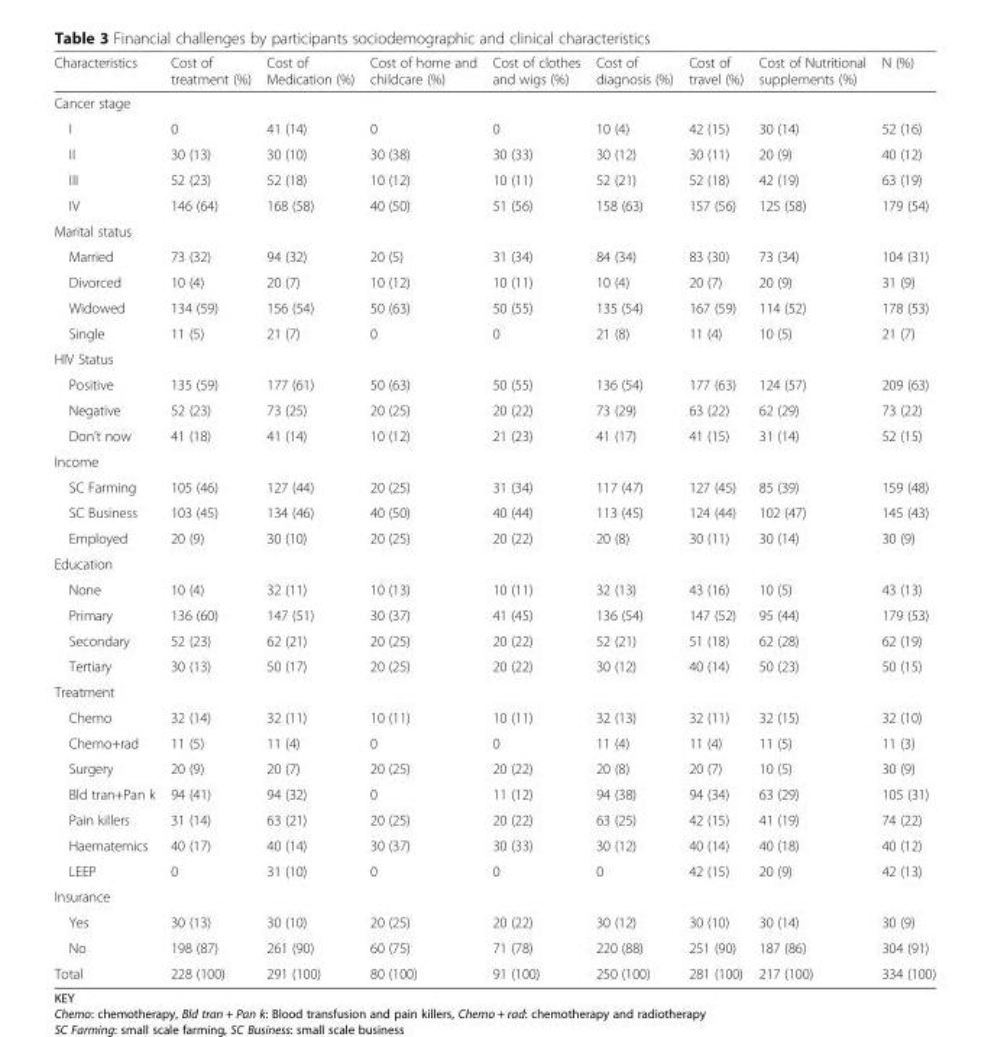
<table><thead><tr><td>Characteristics</td><td>Cost of treatment (%)</td><td>Cost of Medication (%)</td><td>Cost of home and childcare (%)</td><td>Cost of clothes and wigs (%)</td><td>Cost of diagnosis (%)</td><td>Cost of travel (%)</td><td>Cost of Nutritional supplements (%)</td><td>N (%)</td></tr></thead><tbody><tr><td colspan="9">Cancer stage</td></tr><tr><td>I</td><td>0</td><td>41 (14)</td><td>0</td><td>0</td><td>10 (4)</td><td>42 (15)</td><td>30 (14)</td><td>52 (16)</td></tr><tr><td>II</td><td>30 (13)</td><td>30 (10)</td><td>30 (38)</td><td>30 (33)</td><td>30 (12)</td><td>30 (11)</td><td>20 (9)</td><td>40 (12)</td></tr><tr><td>III</td><td>52 (23)</td><td>52 (18)</td><td>10 (12)</td><td>10 (11)</td><td>52 (21)</td><td>52 (18)</td><td>42 (19)</td><td>63 (19)</td></tr><tr><td>IV</td><td>146 (64)</td><td>168 (58)</td><td>40 (50)</td><td>51 (56)</td><td>158 (63)</td><td>157 (56)</td><td>125 (58)</td><td>179 (54)</td></tr><tr><td colspan="9">Marital status</td></tr><tr><td>Married</td><td>73 (32)</td><td>94 (32)</td><td>20 (5)</td><td>31 (34)</td><td>84 (34)</td><td>83 (30)</td><td>73 (34)</td><td>104 (31)</td></tr><tr><td>Divorced</td><td>10 (4)</td><td>20 (7)</td><td>10 (12)</td><td>10 (11)</td><td>10 (4)</td><td>20 (7)</td><td>20 (9)</td><td>31 (9)</td></tr><tr><td>Widowed</td><td>134 (59)</td><td>156 (54)</td><td>50 (63)</td><td>50 (55)</td><td>135 (54)</td><td>167 (59)</td><td>114 (52)</td><td>178 (53)</td></tr><tr><td>Single</td><td>11 (5)</td><td>21 (7)</td><td>0</td><td>0</td><td>21 (8)</td><td>11 (4)</td><td>10 (5)</td><td>21 (7)</td></tr><tr><td colspan="9">HIV Status</td></tr><tr><td>Positive</td><td>135 (59)</td><td>177 (61)</td><td>50 (63)</td><td>50 (55)</td><td>136 (54)</td><td>177 (63)</td><td>124 (57)</td><td>209 (63)</td></tr><tr><td>Negative</td><td>52 (23)</td><td>73 (25)</td><td>20 (25)</td><td>20 (22)</td><td>73 (29)</td><td>63 (22)</td><td>62 (29)</td><td>73 (22)</td></tr><tr><td>Don’t now</td><td>41 (18)</td><td>41 (14)</td><td>10 (12)</td><td>21 (23)</td><td>41 (17)</td><td>41 (15)</td><td>31 (14)</td><td>52 (15)</td></tr><tr><td colspan="9">Income</td></tr><tr><td>SC Farming</td><td>105 (46)</td><td>127 (44)</td><td>20 (25)</td><td>31 (34)</td><td>117 (47)</td><td>127 (45)</td><td>85 (39)</td><td>159 (48)</td></tr><tr><td>SC Business</td><td>103 (45)</td><td>134 (46)</td><td>40 (50)</td><td>40 (44)</td><td>113 (45)</td><td>124 (44)</td><td>102 (47)</td><td>145 (43)</td></tr><tr><td>Employed</td><td>20 (9)</td><td>30 (10)</td><td>20 (25)</td><td>20 (22)</td><td>20 (8)</td><td>30 (11)</td><td>30 (14)</td><td>30 (9)</td></tr><tr><td colspan="9">Education</td></tr><tr><td>None</td><td>10 (4)</td><td>32 (11)</td><td>10 (13)</td><td>10 (11)</td><td>32 (13)</td><td>43 (16)</td><td>10 (5)</td><td>43 (13)</td></tr><tr><td>Primary</td><td>136 (60)</td><td>147 (51)</td><td>30 (37)</td><td>41 (45)</td><td>136 (54)</td><td>147 (52)</td><td>95 (44)</td><td>179 (53)</td></tr><tr><td>Secondary</td><td>52 (23)</td><td>62 (21)</td><td>20 (25)</td><td>20 (22)</td><td>52 (21)</td><td>51 (18)</td><td>62 (28)</td><td>62 (19)</td></tr><tr><td>Tertiary</td><td>30 (13)</td><td>50 (17)</td><td>20 (25)</td><td>20 (22)</td><td>30 (12)</td><td>40 (14)</td><td>50 (23)</td><td>50 (15)</td></tr><tr><td colspan="9">Treatment</td></tr><tr><td>Chemo</td><td>32 (14)</td><td>32 (11)</td><td>10 (11)</td><td>10 (11)</td><td>32 (13)</td><td>32 (11)</td><td>32 (15)</td><td>32 (10)</td></tr><tr><td>Chemo+rad</td><td>11 (5)</td><td>11 (4)</td><td>0</td><td>0</td><td>11 (4)</td><td>11 (4)</td><td>11 (5)</td><td>11 (3)</td></tr><tr><td>Surgery</td><td>20 (9)</td><td>20 (7)</td><td>20 (25)</td><td>20 (22)</td><td>20 (8)</td><td>20 (7)</td><td>10 (5)</td><td>30 (9)</td></tr><tr><td>Bld tran+Pan k</td><td>94 (41)</td><td>94 (32)</td><td>0</td><td>11 (12)</td><td>94 (38)</td><td>94 (34)</td><td>63 (29)</td><td>105 (31)</td></tr><tr><td>Pain killers</td><td>31 (14)</td><td>63 (21)</td><td>20 (25)</td><td>20 (22)</td><td>63 (25)</td><td>42 (15)</td><td>41 (19)</td><td>74 (22)</td></tr><tr><td>Haematemics</td><td>40 (17)</td><td>40 (14)</td><td>30 (37)</td><td>30 (33)</td><td>30 (12)</td><td>40 (14)</td><td>40 (18)</td><td>40 (12)</td></tr><tr><td>LEEP</td><td>0</td><td>31 (10)</td><td>0</td><td>0</td><td>0</td><td>42 (15)</td><td>20 (9)</td><td>42 (13)</td></tr><tr><td colspan="9">Insurance</td></tr><tr><td>Yes</td><td>30 (13)</td><td>30 (10)</td><td>20 (25)</td><td>20 (22)</td><td>30 (12)</td><td>30 (10)</td><td>30 (14)</td><td>30 (9)</td></tr><tr><td>No</td><td>198 (87)</td><td>261 (90)</td><td>60 (75)</td><td>71 (78)</td><td>220 (88)</td><td>251 (90)</td><td>187 (86)</td><td>304 (91)</td></tr><tr><td>Total</td><td>228 (100)</td><td>291 (100)</td><td>80 (100)</td><td>91 (100)</td><td>250 (100)</td><td>281 (100)</td><td>217 (100)</td><td>334 (100)</td></tr></tbody></table>